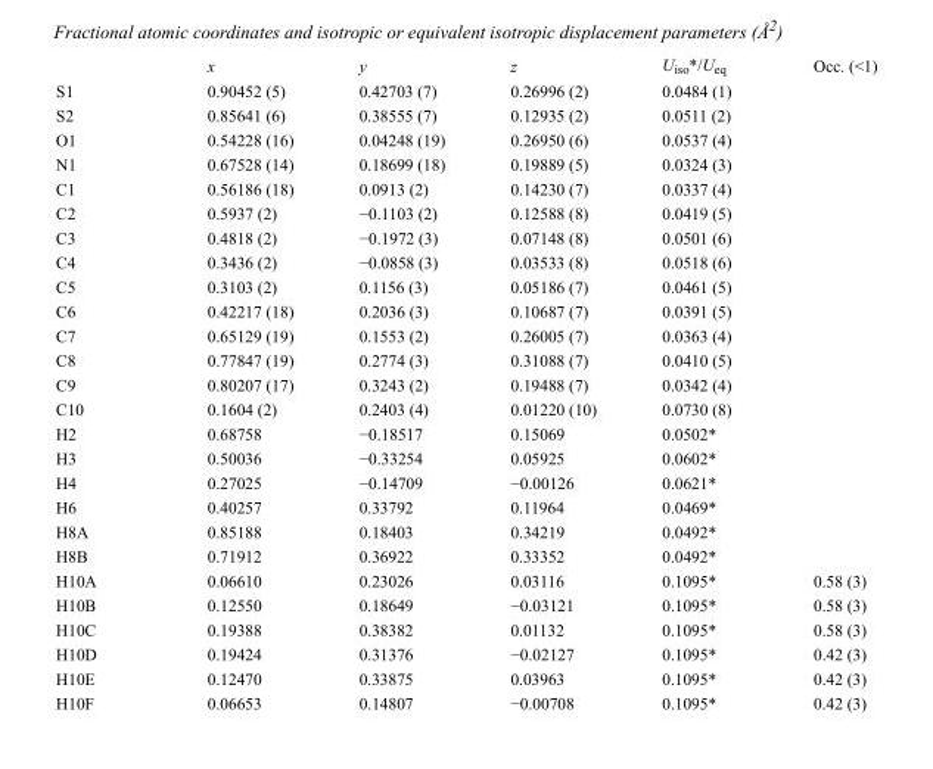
<table><thead><tr><td></td><td>x</td><td>y</td><td>z</td><td>U<sub>iso</sub>*/U<sub>eq</sub></td><td>Occ. (&lt;1)</td></tr></thead><tbody><tr><td>S1</td><td>0.90452 (5)</td><td>0.42703 (7)</td><td>0.26996 (2)</td><td>0.0484 (1)</td><td></td></tr><tr><td>S2</td><td>0.85641 (6)</td><td>0.38555 (7)</td><td>0.12935 (2)</td><td>0.0511 (2)</td><td></td></tr><tr><td>O1</td><td>0.54228 (16)</td><td>0.04248 (19)</td><td>0.26950 (6)</td><td>0.0537 (4)</td><td></td></tr><tr><td>N1</td><td>0.67528 (14)</td><td>0.18699 (18)</td><td>0.19889 (5)</td><td>0.0324 (3)</td><td></td></tr><tr><td>C1</td><td>0.56186 (18)</td><td>0.0913 (2)</td><td>0.14230 (7)</td><td>0.0337 (4)</td><td></td></tr><tr><td>C2</td><td>0.5937 (2)</td><td>−0.1103 (2)</td><td>0.12588 (8)</td><td>0.0419 (5)</td><td></td></tr><tr><td>C3</td><td>0.4818 (2)</td><td>−0.1972 (3)</td><td>0.07148 (8)</td><td>0.0501 (6)</td><td></td></tr><tr><td>C4</td><td>0.3436 (2)</td><td>−0.0858 (3)</td><td>0.03533 (8)</td><td>0.0518 (6)</td><td></td></tr><tr><td>C5</td><td>0.3103 (2)</td><td>0.1156 (3)</td><td>0.05186 (7)</td><td>0.0461 (5)</td><td></td></tr><tr><td>C6</td><td>0.42217 (18)</td><td>0.2036 (3)</td><td>0.10687 (7)</td><td>0.0391 (5)</td><td></td></tr><tr><td>C7</td><td>0.65129 (19)</td><td>0.1553 (2)</td><td>0.26005 (7)</td><td>0.0363 (4)</td><td></td></tr><tr><td>C8</td><td>0.77847 (19)</td><td>0.2774 (3)</td><td>0.31088 (7)</td><td>0.0410 (5)</td><td></td></tr><tr><td>C9</td><td>0.80207 (17)</td><td>0.3243 (2)</td><td>0.19488 (7)</td><td>0.0342 (4)</td><td></td></tr><tr><td>C10</td><td>0.1604 (2)</td><td>0.2403 (4)</td><td>0.01220 (10)</td><td>0.0730 (8)</td><td></td></tr><tr><td>H2</td><td>0.68758</td><td>−0.18517</td><td>0.15069</td><td>0.0502*</td><td></td></tr><tr><td>H3</td><td>0.50036</td><td>−0.33254</td><td>0.05925</td><td>0.0602*</td><td></td></tr><tr><td>H4</td><td>0.27025</td><td>−0.14709</td><td>−0.00126</td><td>0.0621*</td><td></td></tr><tr><td>H6</td><td>0.40257</td><td>0.33792</td><td>0.11964</td><td>0.0469*</td><td></td></tr><tr><td>H8A</td><td>0.85188</td><td>0.18403</td><td>0.34219</td><td>0.0492*</td><td></td></tr><tr><td>H8B</td><td>0.71912</td><td>0.36922</td><td>0.33352</td><td>0.0492*</td><td></td></tr><tr><td>H10A</td><td>0.06610</td><td>0.23026</td><td>0.03116</td><td>0.1095*</td><td>0.58 (3)</td></tr><tr><td>H10B</td><td>0.12550</td><td>0.18649</td><td>−0.03121</td><td>0.1095*</td><td>0.58 (3)</td></tr><tr><td>H10C</td><td>0.19388</td><td>0.38382</td><td>0.01132</td><td>0.1095*</td><td>0.58 (3)</td></tr><tr><td>H10D</td><td>0.19424</td><td>0.31376</td><td>−0.02127</td><td>0.1095*</td><td>0.42 (3)</td></tr><tr><td>H10E</td><td>0.12470</td><td>0.33875</td><td>0.03963</td><td>0.1095*</td><td>0.42 (3)</td></tr><tr><td>H10F</td><td>0.06653</td><td>0.14807</td><td>−0.00708</td><td>0.1095*</td><td>0.42 (3)</td></tr></tbody></table>